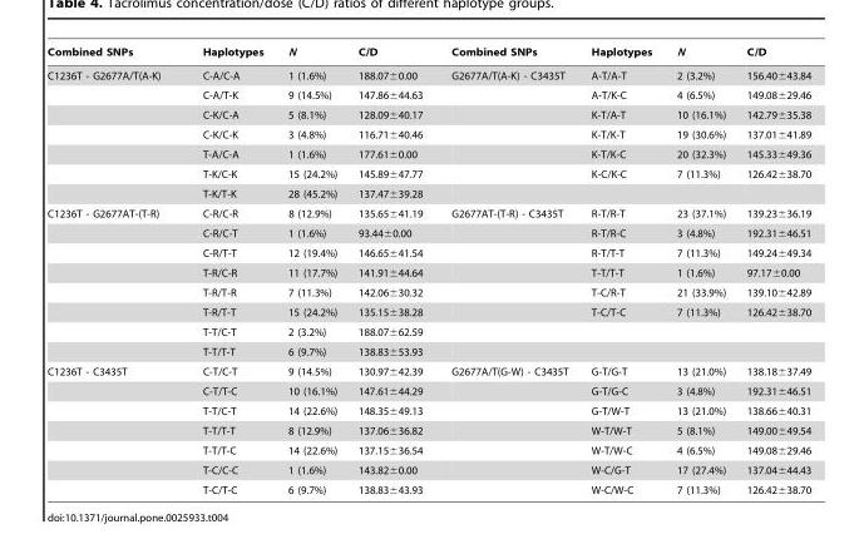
<table><thead><tr><td>Combined SNPs</td><td>Haplotypes</td><td>N</td><td>C/D</td><td>Combined SNPs</td><td>Haplotypes</td><td>N</td><td>C/D</td></tr></thead><tbody><tr><td rowspan="7">C1236T - G2677A/T(A-K)</td><td>C-A/C-A</td><td>1 (1.6%)</td><td>188.07±0.00</td><td>G2677A/T(A-K) - C3435T</td><td>A-T/A-T</td><td>2 (3.2%)</td><td>156.40±43.84</td></tr><tr><td>C-A/T-K</td><td>9 (14.5%)</td><td>147.86±44.63</td><td></td><td>A-T/K-C</td><td>4 (6.5%)</td><td>149.08±29.46</td></tr><tr><td>C-K/C-A</td><td>5 (8.1%)</td><td>128.09±40.17</td><td></td><td>K-T/A-T</td><td>10 (16.1%)</td><td>142.79±35.38</td></tr><tr><td>C-K/C-K</td><td>3 (4.8%)</td><td>116.71±40.46</td><td></td><td>K-T/K-T</td><td>19 (30.6%)</td><td>137.01±41.89</td></tr><tr><td>T-A/C-A</td><td>1 (1.6%)</td><td>177.61±0.00</td><td></td><td>K-T/K-C</td><td>20 (32.3%)</td><td>145.33±49.36</td></tr><tr><td>T-K/C-K</td><td>15 (24.2%)</td><td>145.89±47.77</td><td></td><td>K-C/K-C</td><td>7 (11.3%)</td><td>126.42±38.70</td></tr><tr><td>T-K/T-K</td><td>28 (45.2%)</td><td>137.47±39.28</td><td></td><td></td><td></td><td></td></tr><tr><td rowspan="8">C1236T - G2677AT-(T-R)</td><td>C-R/C-R</td><td>8 (12.9%)</td><td>135.65±41.19</td><td>G2677AT-(T-R) - C3435T</td><td>R-T/R-T</td><td>23 (37.1%)</td><td>139.23±36.19</td></tr><tr><td>C-R/C-T</td><td>1 (1.6%)</td><td>93.44±0.00</td><td></td><td>R-T/R-C</td><td>3 (4.8%)</td><td>192.31±46.51</td></tr><tr><td>C-R/T-T</td><td>12 (19.4%)</td><td>146.65±41.54</td><td></td><td>R-T/T-T</td><td>7 (11.3%)</td><td>149.24±49.34</td></tr><tr><td>T-R/C-R</td><td>11 (17.7%)</td><td>141.91±44.64</td><td></td><td>T-T/T-T</td><td>1 (1.6%)</td><td>97.17±0.00</td></tr><tr><td>T-R/T-R</td><td>7 (11.3%)</td><td>142.06±30.32</td><td></td><td>T-C/R-T</td><td>21 (33.9%)</td><td>139.10±42.89</td></tr><tr><td>T-R/T-T</td><td>15 (24.2%)</td><td>135.15±38.28</td><td></td><td>T-C/T-C</td><td>7 (11.3%)</td><td>126.42±38.70</td></tr><tr><td>T-T/C-T</td><td>2 (3.2%)</td><td>188.07±62.59</td><td></td><td></td><td></td><td></td></tr><tr><td>T-T/T-T</td><td>6 (9.7%)</td><td>138.83±53.93</td><td></td><td></td><td></td><td></td></tr><tr><td rowspan="7">C1236T - C3435T</td><td>C-T/C-T</td><td>9 (14.5%)</td><td>130.97±42.39</td><td>G2677A/T(G-W) - C3435T</td><td>G-T/G-T</td><td>13 (21.0%)</td><td>138.18±37.49</td></tr><tr><td>C-T/T-C</td><td>10 (16.1%)</td><td>147.61±44.29</td><td></td><td>G-T/G-C</td><td>3 (4.8%)</td><td>192.31±46.51</td></tr><tr><td>T-T/C-T</td><td>14 (22.6%)</td><td>148.35±49.13</td><td></td><td>G-T/W-T</td><td>13 (21.0%)</td><td>138.66±40.31</td></tr><tr><td>T-T/T-T</td><td>8 (12.9%)</td><td>137.06±36.82</td><td></td><td>W-T/W-T</td><td>5 (8.1%)</td><td>149.00±49.54</td></tr><tr><td>T-T/T-C</td><td>14 (22.6%)</td><td>137.15±36.54</td><td></td><td>W-T/W-C</td><td>4 (6.5%)</td><td>149.08±29.46</td></tr><tr><td>T-C/C-C</td><td>1 (1.6%)</td><td>143.82±0.00</td><td></td><td>W-C/G-T</td><td>17 (27.4%)</td><td>137.04±44.43</td></tr><tr><td>T-C/T-C</td><td>6 (9.7%)</td><td>138.83±43.93</td><td></td><td>W-C/W-C</td><td>7 (11.3%)</td><td>126.42±38.70</td></tr></tbody></table>